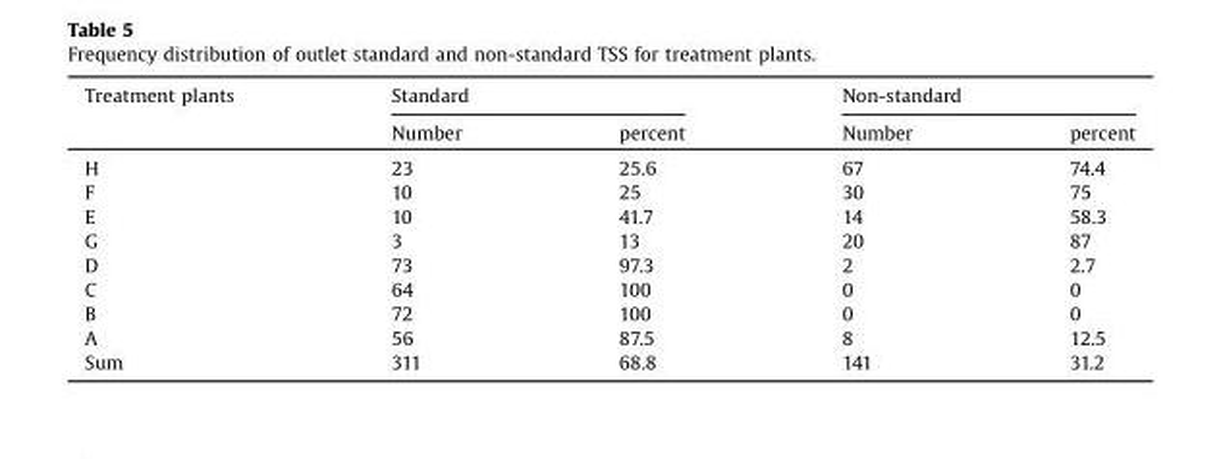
<table><thead><tr><td rowspan="2">Treatment plants</td><td colspan="2">Standard</td><td colspan="2">Non-standard</td></tr><tr><td>Number</td><td>percent</td><td>Number</td><td>percent</td></tr></thead><tbody><tr><td>H</td><td>23</td><td>25.6</td><td>67</td><td>74.4</td></tr><tr><td>F</td><td>10</td><td>25</td><td>30</td><td>75</td></tr><tr><td>E</td><td>10</td><td>41.7</td><td>14</td><td>58.3</td></tr><tr><td>G</td><td>3</td><td>13</td><td>20</td><td>87</td></tr><tr><td>D</td><td>73</td><td>97.3</td><td>2</td><td>2.7</td></tr><tr><td>C</td><td>64</td><td>100</td><td>0</td><td>0</td></tr><tr><td>B</td><td>72</td><td>100</td><td>0</td><td>0</td></tr><tr><td>A</td><td>56</td><td>87.5</td><td>8</td><td>12.5</td></tr><tr><td>Sum</td><td>311</td><td>68.8</td><td>141</td><td>31.2</td></tr></tbody></table>